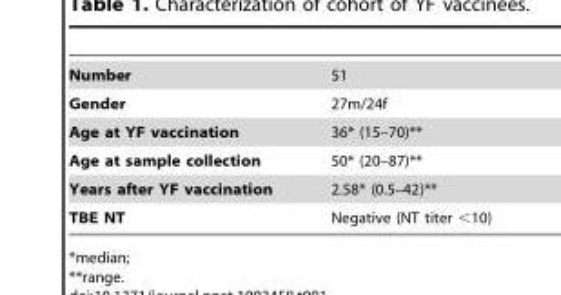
<table><tbody><tr><td>Number</td><td>51</td></tr><tr><td>Gender</td><td>27m/24f</td></tr><tr><td>Age at YF vaccination</td><td>36* (15–70)**</td></tr><tr><td>Age at sample collection</td><td>50* (20–87)**</td></tr><tr><td>Years after YF vaccination</td><td>2.58* (0.5–42)**</td></tr><tr><td>TBE NT</td><td>Negative (NT titer &lt;10)</td></tr></tbody></table>